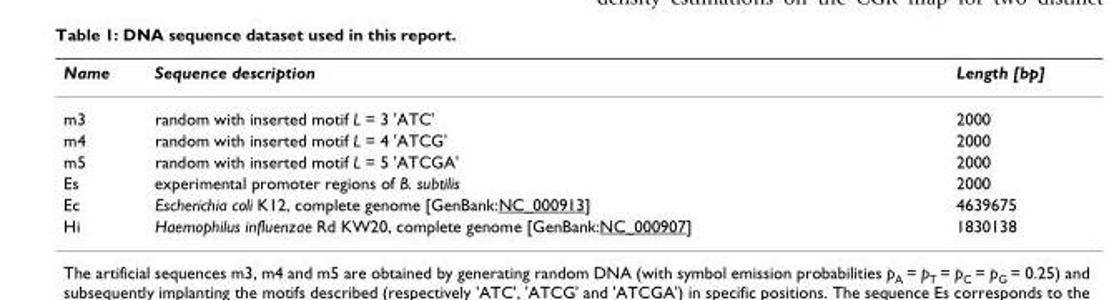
<table><thead><tr><td>Name</td><td>Sequence description</td><td>Length [bp]</td></tr></thead><tbody><tr><td>m3</td><td>random with inserted motif L = 3 &#x27;ATC&#x27;</td><td>2000</td></tr><tr><td>m4</td><td>random with inserted motif L = 4 &#x27;ATCG&#x27;</td><td>2000</td></tr><tr><td>m5</td><td>random with inserted motif L = 5 &#x27;ATCGA&#x27;</td><td>2000</td></tr><tr><td>Es</td><td>experimental promoter regions of B. subtilis</td><td>2000</td></tr><tr><td>Ec</td><td>Escherichia coli K12, complete genome [GenBank:NC_000913]</td><td>4639675</td></tr><tr><td>Hi</td><td>Haemophilus influenzae Rd KW20, complete genome [GenBank:NC_000907]</td><td>1830138</td></tr></tbody></table>